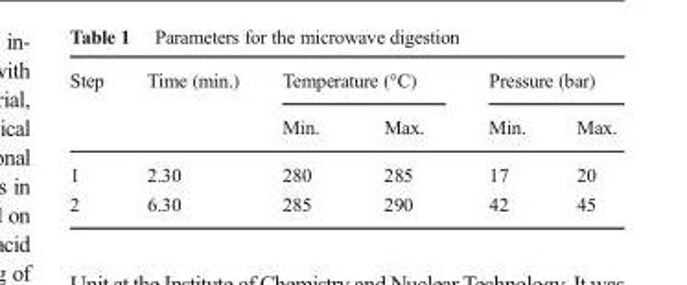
<table><thead><tr><td rowspan="2">Step</td><td rowspan="2">Time (min.)</td><td colspan="2">Temperature (°C)</td><td colspan="2">Pressure (bar)</td></tr><tr><td>Min.</td><td>Max.</td><td>Min.</td><td>Max.</td></tr></thead><tbody><tr><td>1</td><td>2.30</td><td>280</td><td>285</td><td>17</td><td>20</td></tr><tr><td>2</td><td>6.30</td><td>285</td><td>290</td><td>42</td><td>45</td></tr></tbody></table>